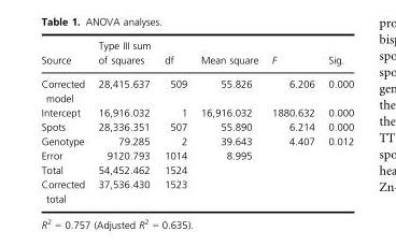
<table><thead><tr><td>Source</td><td>Type III sum of squares</td><td>df</td><td>Mean square</td><td>F</td><td>Sig.</td></tr></thead><tbody><tr><td>Corrected model</td><td>28,415.637</td><td>509</td><td>55.826</td><td>6.206</td><td>0.000</td></tr><tr><td>Intercept</td><td>16,916.032</td><td>1</td><td>16,916.032</td><td>1880.632</td><td>0.000</td></tr><tr><td>Spots</td><td>28,336.351</td><td>507</td><td>55.890</td><td>6.214</td><td>0.000</td></tr><tr><td>Genotype</td><td>79.285</td><td>2</td><td>39.643</td><td>4.407</td><td>0.012</td></tr><tr><td>Error</td><td>9120.793</td><td>1014</td><td>8.995</td><td></td><td></td></tr><tr><td>Total</td><td>54,452.462</td><td>1524</td><td></td><td></td><td></td></tr><tr><td>Corrected total</td><td>37,536.430</td><td>1523</td><td></td><td></td><td></td></tr></tbody></table>